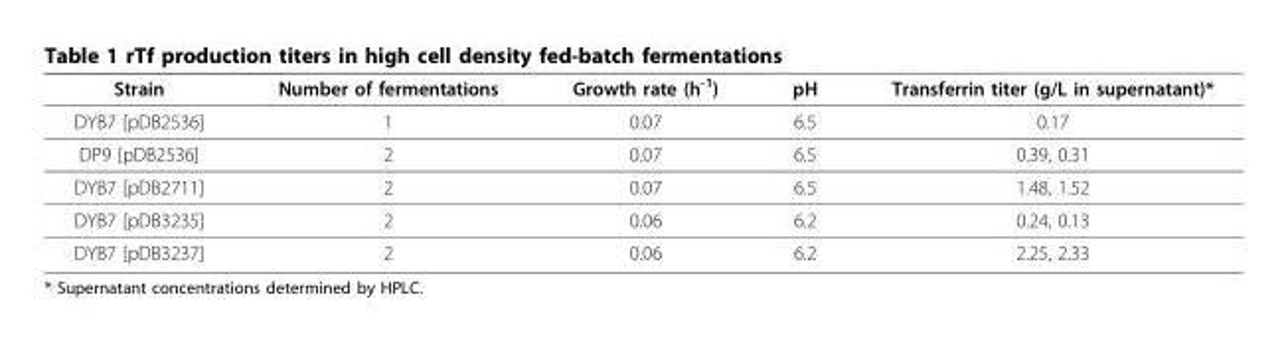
<table><thead><tr><td>Strain</td><td>Number of fermentations</td><td>Growth rate (h<sup>-1</sup>)</td><td>pH</td><td>Transferrin titer (g/L in supernatant)*</td></tr></thead><tbody><tr><td>DYB7 [pDB2536]</td><td>1</td><td>0.07</td><td>6.5</td><td>0.17</td></tr><tr><td>DP9 [pDB2536]</td><td>2</td><td>0.07</td><td>6.5</td><td>0.39, 0.31</td></tr><tr><td>DYB7 [pDB2711]</td><td>2</td><td>0.07</td><td>6.5</td><td>1.48, 1.52</td></tr><tr><td>DYB7 [pDB3235]</td><td>2</td><td>0.06</td><td>6.2</td><td>0.24, 0.13</td></tr><tr><td>DYB7 [pDB3237]</td><td>2</td><td>0.06</td><td>6.2</td><td>2.25, 2.33</td></tr></tbody></table>